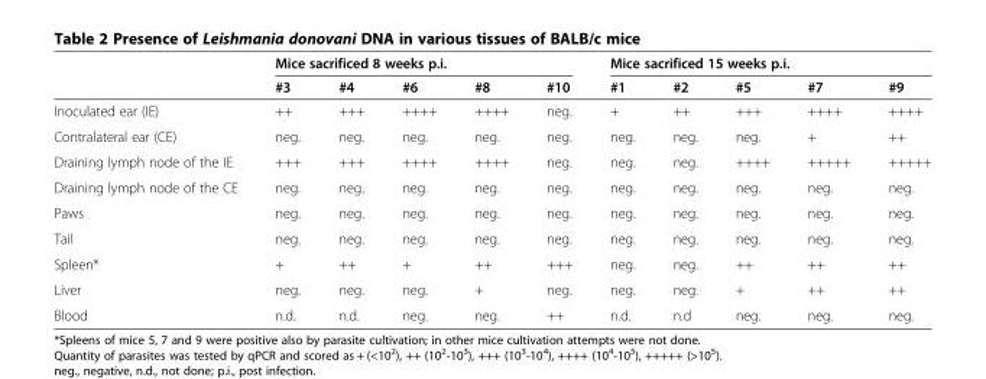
<table><thead><tr><td rowspan="2"></td><td colspan="5">Mice sacrificed 8 weeks p.i.</td><td colspan="5">Mice sacrificed 15 weeks p.i.</td></tr><tr><td>#3</td><td>#4</td><td>#6</td><td>#8</td><td>#10</td><td>#1</td><td>#2</td><td>#5</td><td>#7</td><td>#9</td></tr></thead><tbody><tr><td>Inoculated ear (IE)</td><td>++</td><td>+++</td><td>++++</td><td>++++</td><td>neg.</td><td>+</td><td>++</td><td>+++</td><td>++++</td><td>++++</td></tr><tr><td>Contralateral ear (CE)</td><td>neg.</td><td>neg.</td><td>neg.</td><td>neg.</td><td>neg.</td><td>neg.</td><td>neg.</td><td>neg.</td><td>+</td><td>++</td></tr><tr><td>Draining lymph node of the IE</td><td>+++</td><td>+++</td><td>++++</td><td>++++</td><td>neg.</td><td>neg.</td><td>neg.</td><td>++++</td><td>+++++</td><td>+++++</td></tr><tr><td>Draining lymph node of the CE</td><td>neg.</td><td>neg.</td><td>neg.</td><td>neg.</td><td>neg.</td><td>neg.</td><td>neg.</td><td>neg.</td><td>neg.</td><td>neg.</td></tr><tr><td>Paws</td><td>neg.</td><td>neg.</td><td>neg.</td><td>neg.</td><td>neg.</td><td>neg.</td><td>neg.</td><td>neg.</td><td>neg.</td><td>neg.</td></tr><tr><td>Tail</td><td>neg.</td><td>neg.</td><td>neg.</td><td>neg.</td><td>neg.</td><td>neg.</td><td>neg.</td><td>neg.</td><td>neg.</td><td>neg.</td></tr><tr><td>Spleen*</td><td>+</td><td>++</td><td>+</td><td>++</td><td>+++</td><td>neg.</td><td>neg.</td><td>++</td><td>++</td><td>++</td></tr><tr><td>Liver</td><td>neg.</td><td>neg.</td><td>neg.</td><td>+</td><td>neg.</td><td>neg.</td><td>neg.</td><td>+</td><td>++</td><td>++</td></tr><tr><td>Blood</td><td>n.d.</td><td>n.d.</td><td>neg.</td><td>neg.</td><td>++</td><td>n.d.</td><td>n.d</td><td>neg.</td><td>neg.</td><td>neg.</td></tr></tbody></table>